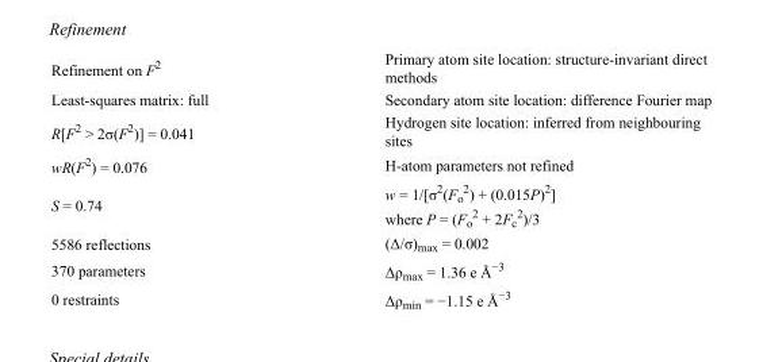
<table><tbody><tr><td>Refinement on F<sup>2</sup></td><td>Primary atom site location: structure-invariant direct methods</td></tr><tr><td>Least-squares matrix: full</td><td>Secondary atom site location: difference Fourier map</td></tr><tr><td>R[F<sup>2</sup> &gt; 2σ(F<sup>2</sup>)] = 0.041</td><td>Hydrogen site location: inferred from neighbouring sites</td></tr><tr><td>wR(F<sup>2</sup>) = 0.076</td><td>H-atom parameters not refined</td></tr><tr><td>S = 0.74</td><td>w = 1/[σ<sup>2</sup>(F<sub>o</sub> <sup>2</sup>) + (0.015P)<sup>2</sup>] where P = (F<sub>o</sub> <sup>2</sup> + 2F<sub>c</sub> <sup>2</sup>)/3</td></tr><tr><td>5586 reflections</td><td>(Δ/σ)<sub>max</sub> = 0.002</td></tr><tr><td>370 parameters</td><td>Δρ<sub>max</sub> = 1.36 e Å<sup>−3</sup></td></tr><tr><td>0 restraints</td><td>Δρ<sub>min</sub> = −1.15 e Å<sup>−3</sup></td></tr></tbody></table>